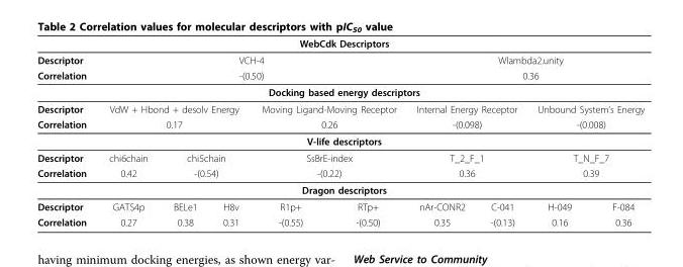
<table><thead><tr><td colspan="10">WebCdk Descriptors</td></tr></thead><tbody><tr><td>Descriptor</td><td colspan="5">VCH-4</td><td colspan="4">Wlambda2.unity</td></tr><tr><td>Correlation</td><td colspan="5">-(0.50)</td><td colspan="4">0.36</td></tr><tr><td colspan="10">Docking based energy descriptors</td></tr><tr><td>Descriptor</td><td colspan="3">VdW + Hbond + desolv Energy</td><td colspan="2">Moving Ligand-Moving Receptor</td><td colspan="2">Internal Energy Receptor</td><td colspan="2">Unbound System’s Energy</td></tr><tr><td>Correlation</td><td colspan="3">0.17</td><td colspan="2">0.26</td><td colspan="2">-(0.098)</td><td colspan="2">-(0.008)</td></tr><tr><td colspan="10">V-life descriptors</td></tr><tr><td>Descriptor</td><td>chi6chain</td><td colspan="2">chi5chain</td><td colspan="2">SsBrE-index</td><td colspan="2">T_2_F_1</td><td colspan="2">T_N_F_7</td></tr><tr><td>Correlation</td><td>0.42</td><td colspan="2">-(0.54)</td><td colspan="2">-(0.22)</td><td colspan="2">0.36</td><td colspan="2">0.39</td></tr><tr><td colspan="10">Dragon descriptors</td></tr><tr><td>Descriptor</td><td>GATS4p</td><td>BELe1</td><td>H8v</td><td>R1p+</td><td>RTp+</td><td>nAr-CONR2</td><td>C-041</td><td>H-049</td><td>F-084</td></tr><tr><td>Correlation</td><td>0.27</td><td>0.38</td><td>0.31</td><td>-(0.55)</td><td>-(0.50)</td><td>0.35</td><td>-(0.13)</td><td>0.16</td><td>0.36</td></tr></tbody></table>